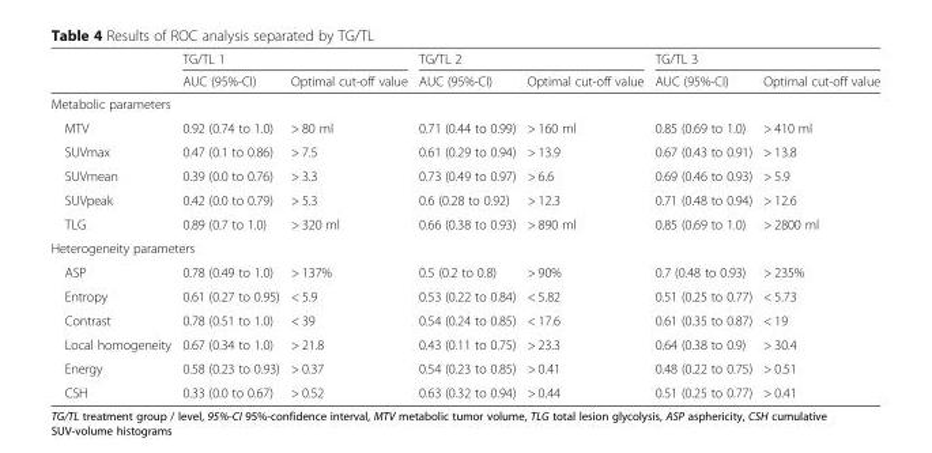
<table><thead><tr><td rowspan="2"></td><td colspan="2">TG/TL 1</td><td colspan="2">TG/TL 2</td><td colspan="2">TG/TL 3</td></tr><tr><td>AUC (95%-CI)</td><td>Optimal cut-off value</td><td>AUC (95%-CI)</td><td>Optimal cut-off value</td><td>AUC (95%-CI)</td><td>Optimal cut-off value</td></tr></thead><tbody><tr><td colspan="7">Metabolic parameters</td></tr><tr><td>MTV</td><td>0.92 (0.74 to 1.0)</td><td>&gt; 80 ml</td><td>0.71 (0.44 to 0.99)</td><td>&gt; 160 ml</td><td>0.85 (0.69 to 1.0)</td><td>&gt; 410 ml</td></tr><tr><td>SUVmax</td><td>0.47 (0.1 to 0.86)</td><td>&gt; 7.5</td><td>0.61 (0.29 to 0.94)</td><td>&gt; 13.9</td><td>0.67 (0.43 to 0.91)</td><td>&gt; 13.8</td></tr><tr><td>SUVmean</td><td>0.39 (0.0 to 0.76)</td><td>&gt; 3.3</td><td>0.73 (0.49 to 0.97)</td><td>&gt; 6.6</td><td>0.69 (0.46 to 0.93)</td><td>&gt; 5.9</td></tr><tr><td>SUVpeak</td><td>0.42 (0.0 to 0.79)</td><td>&gt; 5.3</td><td>0.6 (0.28 to 0.92)</td><td>&gt; 12.3</td><td>0.71 (0.48 to 0.94)</td><td>&gt; 12.6</td></tr><tr><td>TLG</td><td>0.89 (0.7 to 1.0)</td><td>&gt; 320 ml</td><td>0.66 (0.38 to 0.93)</td><td>&gt; 890 ml</td><td>0.85 (0.69 to 1.0)</td><td>&gt; 2800 ml</td></tr><tr><td colspan="7">Heterogeneity parameters</td></tr><tr><td>ASP</td><td>0.78 (0.49 to 1.0)</td><td>&gt; 137%</td><td>0.5 (0.2 to 0.8)</td><td>&gt; 90%</td><td>0.7 (0.48 to 0.93)</td><td>&gt; 235%</td></tr><tr><td>Entropy</td><td>0.61 (0.27 to 0.95)</td><td>&lt; 5.9</td><td>0.53 (0.22 to 0.84)</td><td>&lt; 5.82</td><td>0.51 (0.25 to 0.77)</td><td>&lt; 5.73</td></tr><tr><td>Contrast</td><td>0.78 (0.51 to 1.0)</td><td>&lt; 39</td><td>0.54 (0.24 to 0.85)</td><td>&lt; 17.6</td><td>0.61 (0.35 to 0.87)</td><td>&lt; 19</td></tr><tr><td>Local homogeneity</td><td>0.67 (0.34 to 1.0)</td><td>&gt; 21.8</td><td>0.43 (0.11 to 0.75)</td><td>&gt; 23.3</td><td>0.64 (0.38 to 0.9)</td><td>&gt; 30.4</td></tr><tr><td>Energy</td><td>0.58 (0.23 to 0.93)</td><td>&gt; 0.37</td><td>0.54 (0.23 to 0.85)</td><td>&gt; 0.41</td><td>0.48 (0.22 to 0.75)</td><td>&gt; 0.51</td></tr><tr><td>CSH</td><td>0.33 (0.0 to 0.67)</td><td>&gt; 0.52</td><td>0.63 (0.32 to 0.94)</td><td>&gt; 0.44</td><td>0.51 (0.25 to 0.77)</td><td>&gt; 0.41</td></tr></tbody></table>